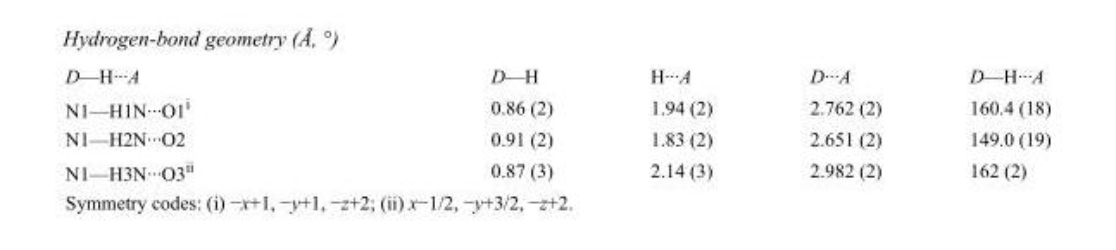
<table><tbody><tr><td>D—H···A</td><td>D—H</td><td>H···A</td><td>D···A</td><td>D—H···A</td></tr><tr><td>N1—H1N···O1<sup>i</sup></td><td>0.86 (2)</td><td>1.94 (2)</td><td>2.762 (2)</td><td>160.4 (18)</td></tr><tr><td>N1—H2N···O2</td><td>0.91 (2)</td><td>1.83 (2)</td><td>2.651 (2)</td><td>149.0 (19)</td></tr><tr><td>N1—H3N···O3<sup>ii</sup></td><td>0.87 (3)</td><td>2.14 (3)</td><td>2.982 (2)</td><td>162 (2)</td></tr></tbody></table>